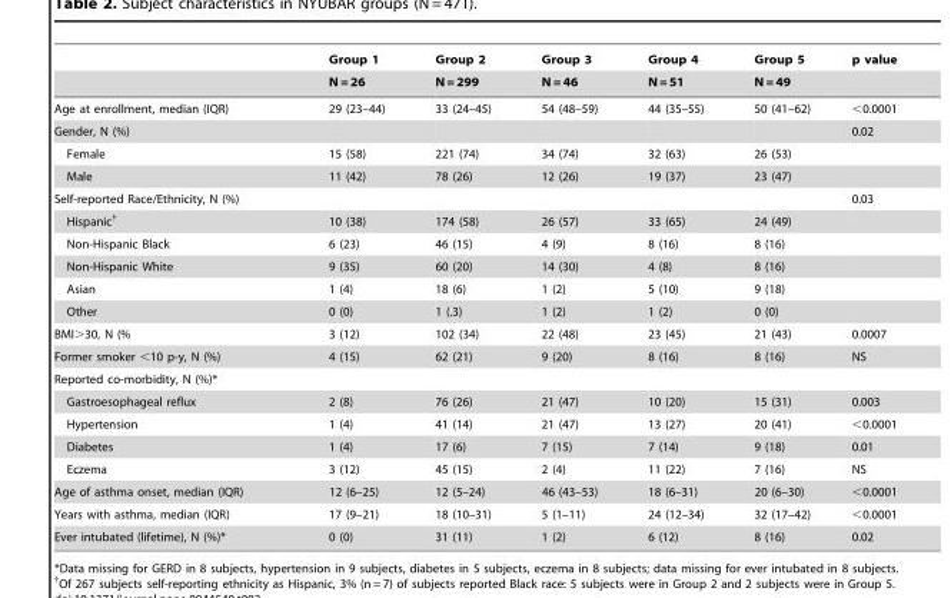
<table><thead><tr><td rowspan="2"></td><td rowspan="2">Group 1 N = 26</td><td rowspan="2">Group 2 N = 299</td><td rowspan="2">Group 3 N = 46</td><td rowspan="2">Group 4 N = 51</td><td rowspan="2">Group 5 N = 49</td><td rowspan="2">p value</td></tr><tr></tr></thead><tbody><tr><td>Age at enrollment, median (IQR)</td><td>29 (23–44)</td><td>33 (24–45)</td><td>54 (48–59)</td><td>44 (35–55)</td><td>50 (41–62)</td><td>&lt;0.0001</td></tr><tr><td>Gender, N (%)</td><td></td><td></td><td></td><td></td><td></td><td>0.02</td></tr><tr><td>Female</td><td>15 (58)</td><td>221 (74)</td><td>34 (74)</td><td>32 (63)</td><td>26 (53)</td><td></td></tr><tr><td>Male</td><td>11 (42)</td><td>78 (26)</td><td>12 (26)</td><td>19 (37)</td><td>23 (47)</td><td></td></tr><tr><td>Self-reported Race/Ethnicity, N (%)</td><td></td><td></td><td></td><td></td><td></td><td>0.03</td></tr><tr><td>Hispanic†</td><td>10 (38)</td><td>174 (58)</td><td>26 (57)</td><td>33 (65)</td><td>24 (49)</td><td></td></tr><tr><td>Non-Hispanic Black</td><td>6 (23)</td><td>46 (15)</td><td>4 (9)</td><td>8 (16)</td><td>8 (16)</td><td></td></tr><tr><td>Non-Hispanic White</td><td>9 (35)</td><td>60 (20)</td><td>14 (30)</td><td>4 (8)</td><td>8 (16)</td><td></td></tr><tr><td>Asian</td><td>1 (4)</td><td>18 (6)</td><td>1 (2)</td><td>5 (10)</td><td>9 (18)</td><td></td></tr><tr><td>Other</td><td>0 (0)</td><td>1 (.3)</td><td>1 (2)</td><td>1 (2)</td><td>0 (0)</td><td></td></tr><tr><td>BMI&gt;30, N (%</td><td>3 (12)</td><td>102 (34)</td><td>22 (48)</td><td>23 (45)</td><td>21 (43)</td><td>0.0007</td></tr><tr><td>Former smoker &lt;10 p-y, N (%)</td><td>4 (15)</td><td>62 (21)</td><td>9 (20)</td><td>8 (16)</td><td>8 (16)</td><td>NS</td></tr><tr><td colspan="7">Reported co-morbidity, N (%)*</td></tr><tr><td>Gastroesophageal reflux</td><td>2 (8)</td><td>76 (26)</td><td>21 (47)</td><td>10 (20)</td><td>15 (31)</td><td>0.003</td></tr><tr><td>Hypertension</td><td>1 (4)</td><td>41 (14)</td><td>21 (47)</td><td>13 (27)</td><td>20 (41)</td><td>&lt;0.0001</td></tr><tr><td>Diabetes</td><td>1 (4)</td><td>17 (6)</td><td>7 (15)</td><td>7 (14)</td><td>9 (18)</td><td>0.01</td></tr><tr><td>Eczema</td><td>3 (12)</td><td>45 (15)</td><td>2 (4)</td><td>11 (22)</td><td>7 (16)</td><td>NS</td></tr><tr><td>Age of asthma onset, median (IQR)</td><td>12 (6–25)</td><td>12 (5–24)</td><td>46 (43–53)</td><td>18 (6–31)</td><td>20 (6–30)</td><td>&lt;0.0001</td></tr><tr><td>Years with asthma, median (IQR)</td><td>17 (9–21)</td><td>18 (10–31)</td><td>5 (1–11)</td><td>24 (12–34)</td><td>32 (17–42)</td><td>&lt;0.0001</td></tr><tr><td>Ever intubated (lifetime), N (%)*</td><td>0 (0)</td><td>31 (11)</td><td>1 (2)</td><td>6 (12)</td><td>8 (16)</td><td>0.02</td></tr></tbody></table>